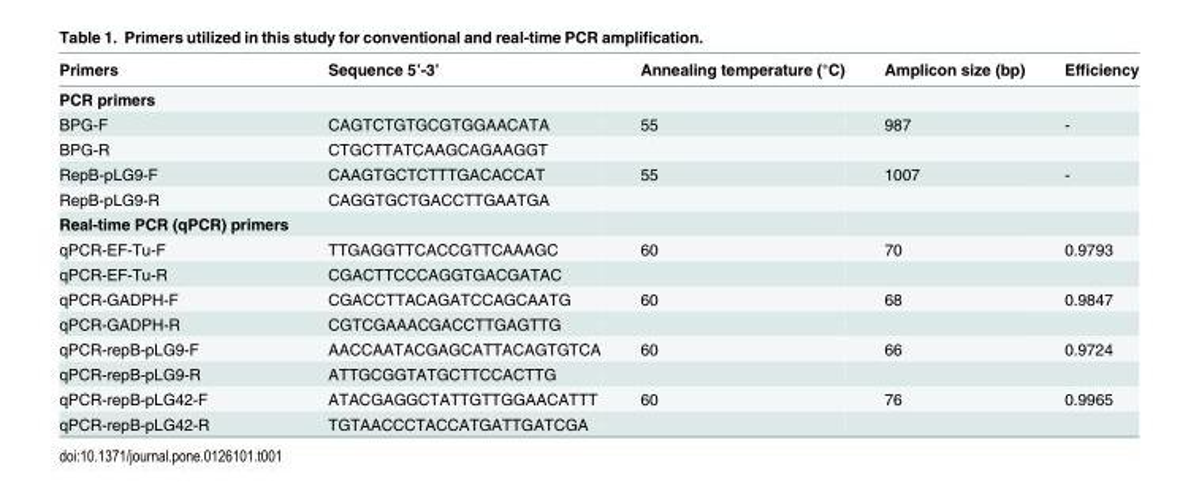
<table><thead><tr><td>Primers</td><td>Sequence 5’-3’</td><td>Annealing temperature (°C)</td><td>Amplicon size (bp)</td><td>Efficiency</td></tr></thead><tbody><tr><td colspan="5">PCR primers</td></tr><tr><td>BPG-F</td><td>CAGTCTGTGCGTGGAACATA</td><td>55</td><td>987</td><td>-</td></tr><tr><td>BPG-R</td><td>CTGCTTATCAAGCAGAAGGT</td><td></td><td></td><td></td></tr><tr><td>RepB-pLG9-F</td><td>CAAGTGCTCTTTGACACCAT</td><td>55</td><td>1007</td><td>-</td></tr><tr><td>RepB-pLG9-R</td><td>CAGGTGCTGACCTTGAATGA</td><td></td><td></td><td></td></tr><tr><td colspan="5">Real-time PCR (qPCR) primers</td></tr><tr><td>qPCR-EF-Tu-F</td><td>TTGAGGTTCACCGTTCAAAGC</td><td>60</td><td>70</td><td>0.9793</td></tr><tr><td>qPCR-EF-Tu-R</td><td>CGACTTCCCAGGTGACGATAC</td><td></td><td></td><td></td></tr><tr><td>qPCR-GADPH-F</td><td>CGACCTTACAGATCCAGCAATG</td><td>60</td><td>68</td><td>0.9847</td></tr><tr><td>qPCR-GADPH-R</td><td>CGTCGAAACGACCTTGAGTTG</td><td></td><td></td><td></td></tr><tr><td>qPCR-repB-pLG9-F</td><td>AACCAATACGAGCATTACAGTGTCA</td><td>60</td><td>66</td><td>0.9724</td></tr><tr><td>qPCR-repB-pLG9-R</td><td>ATTGCGGTATGCTTCCACTTG</td><td></td><td></td><td></td></tr><tr><td>qPCR-repB-pLG42-F</td><td>ATACGAGGCTATTGTTGGAACATTT</td><td>60</td><td>76</td><td>0.9965</td></tr><tr><td>qPCR-repB-pLG42-R</td><td>TGTAACCCTACCATGATTGATCGA</td><td></td><td></td><td></td></tr></tbody></table>